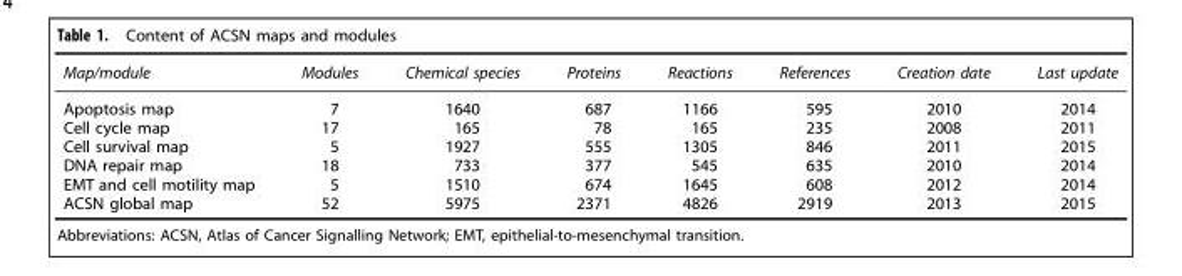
<table><thead><tr><td>Map/module</td><td>Modules</td><td>Chemical species</td><td>Proteins</td><td>Reactions</td><td>References</td><td>Creation date</td><td>Last update</td></tr></thead><tbody><tr><td>Apoptosis map</td><td>7</td><td>1640</td><td>687</td><td>1166</td><td>595</td><td>2010</td><td>2014</td></tr><tr><td>Cell cycle map</td><td>17</td><td>165</td><td>78</td><td>165</td><td>235</td><td>2008</td><td>2011</td></tr><tr><td>Cell survival map</td><td>5</td><td>1927</td><td>555</td><td>1305</td><td>846</td><td>2011</td><td>2015</td></tr><tr><td>DNA repair map</td><td>18</td><td>733</td><td>377</td><td>545</td><td>635</td><td>2010</td><td>2014</td></tr><tr><td>EMT and cell motility map</td><td>5</td><td>1510</td><td>674</td><td>1645</td><td>608</td><td>2012</td><td>2014</td></tr><tr><td>ACSN global map</td><td>52</td><td>5975</td><td>2371</td><td>4826</td><td>2919</td><td>2013</td><td>2015</td></tr></tbody></table>